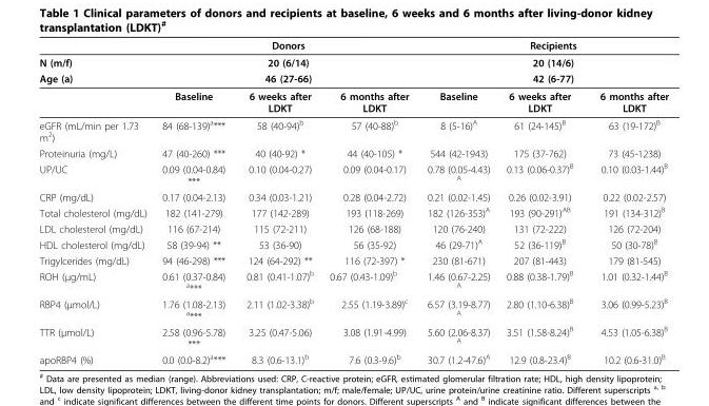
<table><thead><tr><td rowspan="4">N (m/f) Age (a)</td><td rowspan="3" colspan="3">Donors 20 (6/14) 46 (27-66)</td><td rowspan="3" colspan="3">Recipients 20 (14/6) 42 (6-77)</td></tr><tr></tr><tr></tr><tr><td>Baseline</td><td>6 weeks after LDKT</td><td>6 months after LDKT</td><td>Baseline</td><td>6 weeks after LDKT</td><td>6 months after LDKT</td></tr></thead><tbody><tr><td>eGFR (mL/min per 1.73 m<sup>2</sup>)</td><td>84 (68-139)<sup>a</sup>***</td><td>58 (40-94)<sup>b</sup></td><td>57 (40-88)<sup>b</sup></td><td>8 (5-16)<sup>A</sup></td><td>61 (24-145)<sup>B</sup></td><td>63 (19-172)<sup>B</sup></td></tr><tr><td>Proteinuria (mg/L)</td><td>47 (40-260) ***</td><td>40 (40-92) *</td><td>44 (40-105) *</td><td>544 (42-1943)</td><td>175 (37-762)</td><td>73 (45-1238)</td></tr><tr><td>UP/UC</td><td>0.09 (0.04-0.84) ***</td><td>0.10 (0.04-0.27)</td><td>0.09 (0.04-0.17)</td><td>0.78 (0.05-4.43) <sup>A</sup></td><td>0.13 (0.06-0.37)<sup>B</sup></td><td>0.10 (0.03-1.44)<sup>B</sup></td></tr><tr><td>CRP (mg/dL)</td><td>0.17 (0.04-2.13)</td><td>0.34 (0.03-1.21)</td><td>0.28 (0.04-2.72)</td><td>0.21 (0.02-1.45)</td><td>0.26 (0.02-3.91)</td><td>0.22 (0.02-2.57)</td></tr><tr><td>Total cholesterol (mg/dL)</td><td>182 (141-279)</td><td>177 (142-289)</td><td>193 (118-269)</td><td>182 (126-353)<sup>A</sup></td><td>193 (90-291)<sup>AB</sup></td><td>191 (134-312)<sup>B</sup></td></tr><tr><td>LDL cholesterol (mg/dL)</td><td>116 (67-214)</td><td>115 (72-211)</td><td>126 (68-188)</td><td>120 (76-240)</td><td>131 (72-222)</td><td>126 (72-204)</td></tr><tr><td>HDL cholesterol (mg/dL)</td><td>58 (39-94) **</td><td>53 (36-90)</td><td>56 (35-92)</td><td>46 (29-71)<sup>A</sup></td><td>52 (36-119)<sup>B</sup></td><td>50 (30-78)<sup>B</sup></td></tr><tr><td>Trigylcerides (mg/dL)</td><td>94 (46-298) ***</td><td>124 (64-292) **</td><td>116 (72-397) *</td><td>230 (81-671)</td><td>207 (81-443)</td><td>179 (81-545)</td></tr><tr><td>ROH (μg/mL)</td><td>0.61 (0.37-0.84) <sup>a</sup>***</td><td>0.81 (0.41-1.07)<sup>b</sup></td><td>0.67 (0.43-1.09)<sup>b</sup></td><td>1.46 (0.67-2.25) <sup>A</sup></td><td>0.88 (0.38-1.79)<sup>B</sup></td><td>1.01 (0.32-1.44)<sup>B</sup></td></tr><tr><td>RBP4 (μmol/L)</td><td>1.76 (1.08-2.13) <sup>a</sup>***</td><td>2.11 (1.02-3.38)<sup>b</sup></td><td>2.55 (1.19-3.89)<sup>c</sup></td><td>6.57 (3.19-8.77) <sup>A</sup></td><td>2.80 (1.10-6.38)<sup>B</sup></td><td>3.06 (0.99-5.23)<sup>B</sup></td></tr><tr><td>TTR (μmol/L)</td><td>2.58 (0.96-5.78) ***</td><td>3.25 (0.47-5.06)</td><td>3.08 (1.91-4.99)</td><td>5.60 (2.06-8.37) <sup>A</sup></td><td>3.51 (1.58-8.24)<sup>B</sup></td><td>4.53 (1.05-6.38)<sup>B</sup></td></tr><tr><td>apoRBP4 (%)</td><td>0.0 (0.0-8.2)<sup>a</sup>***</td><td>8.3 (0.6-13.1)<sup>b</sup></td><td>7.6 (0.3-9.6)<sup>b</sup></td><td>30.7 (1.2-47.6)<sup>A</sup></td><td>12.9 (0.8-23.4)<sup>B</sup></td><td>10.2 (0.6-31.0)<sup>B</sup></td></tr></tbody></table>